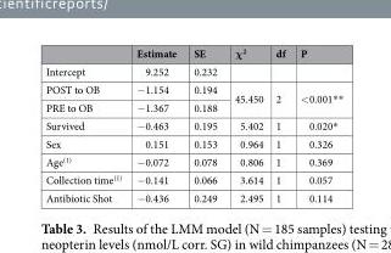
<table><thead><tr><td></td><td>Estimate</td><td>SE</td><td>χ<sup>2</sup></td><td>df</td><td>P</td></tr></thead><tbody><tr><td>Intercept</td><td>9.252</td><td>0.232</td><td></td><td></td><td></td></tr><tr><td>POST to OB</td><td>−1.154</td><td>0.194</td><td rowspan="2">45.450</td><td rowspan="2">2</td><td rowspan="2">&lt;0.001**</td></tr><tr><td>PRE to OB</td><td>−1.367</td><td>0.188</td></tr><tr><td>Survived</td><td>−0.463</td><td>0.195</td><td>5.402</td><td>1</td><td>0.020*</td></tr><tr><td>Sex</td><td>0.151</td><td>0.153</td><td>0.964</td><td>1</td><td>0.326</td></tr><tr><td>Age<sup>(1)</sup></td><td>−0.072</td><td>0.078</td><td>0.806</td><td>1</td><td>0.369</td></tr><tr><td>Collection time<sup>(1)</sup></td><td>−0.141</td><td>0.066</td><td>3.614</td><td>1</td><td>0.057</td></tr><tr><td>Antibiotic Shot</td><td>−0.436</td><td>0.249</td><td>2.495</td><td>1</td><td>0.114</td></tr></tbody></table>